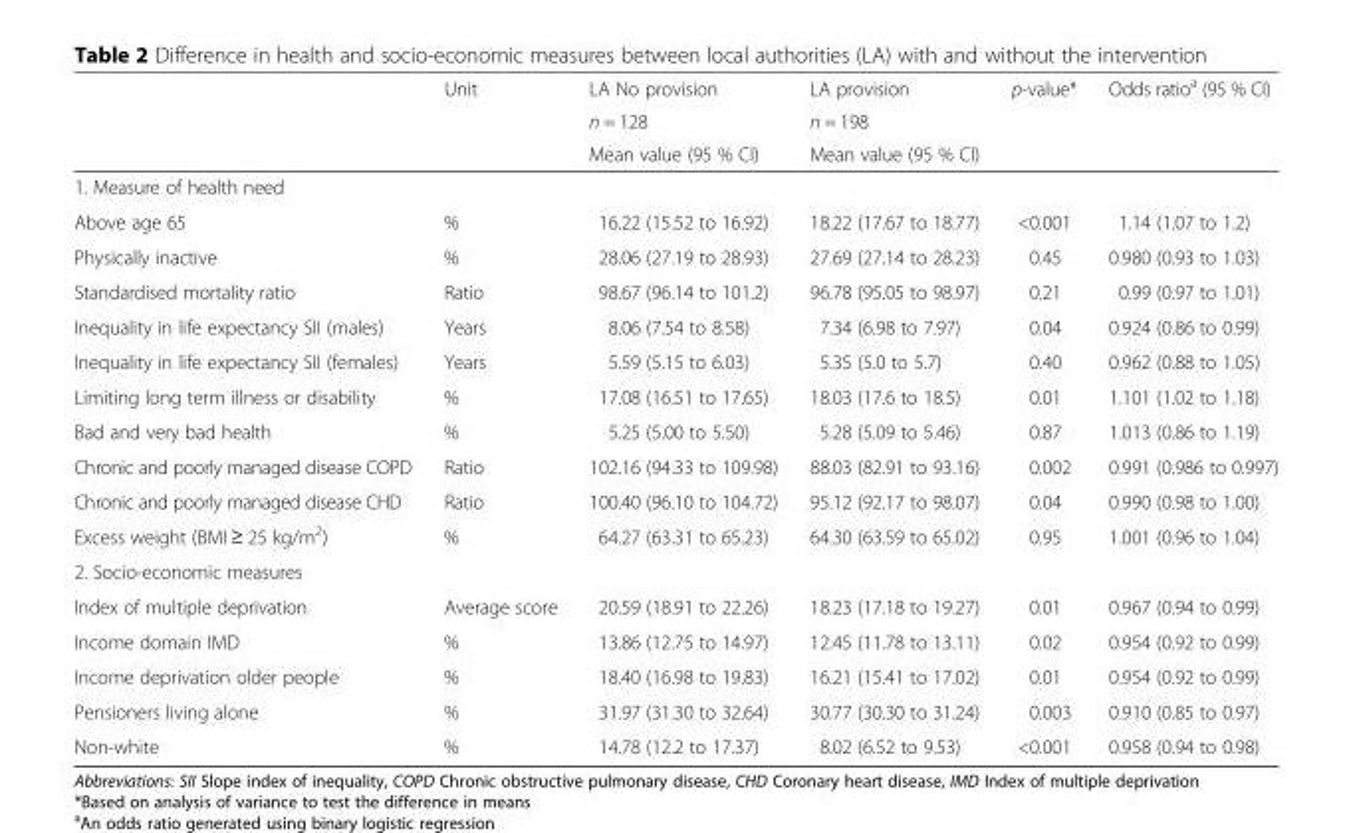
<table><thead><tr><td rowspan="3"></td><td rowspan="3">Unit</td><td rowspan="3">LA No provision n = 128 Mean value (95 % CI)</td><td rowspan="3">LA provision n = 198 Mean value (95 % CI)</td><td rowspan="3">p-value*</td><td rowspan="3">Odds ratio<sup>a</sup> (95 % CI)</td></tr><tr></tr><tr></tr></thead><tbody><tr><td colspan="6">1. Measure of health need</td></tr><tr><td>Above age 65</td><td>%</td><td>16.22 (15.52 to 16.92)</td><td>18.22 (17.67 to 18.77)</td><td>&lt;0.001</td><td>1.14 (1.07 to 1.2)</td></tr><tr><td>Physically inactive</td><td>%</td><td>28.06 (27.19 to 28.93)</td><td>27.69 (27.14 to 28.23)</td><td>0.45</td><td>0.980 (0.93 to 1.03)</td></tr><tr><td>Standardised mortality ratio</td><td>Ratio</td><td>98.67 (96.14 to 101.2)</td><td>96.78 (95.05 to 98.97)</td><td>0.21</td><td>0.99 (0.97 to 1.01)</td></tr><tr><td>Inequality in life expectancy SII (males)</td><td>Years</td><td>8.06 (7.54 to 8.58)</td><td>7.34 (6.98 to 7.97)</td><td>0.04</td><td>0.924 (0.86 to 0.99)</td></tr><tr><td>Inequality in life expectancy SII (females)</td><td>Years</td><td>5.59 (5.15 to 6.03)</td><td>5.35 (5.0 to 5.7)</td><td>0.40</td><td>0.962 (0.88 to 1.05)</td></tr><tr><td>Limiting long term illness or disability</td><td>%</td><td>17.08 (16.51 to 17.65)</td><td>18.03 (17.6 to 18.5)</td><td>0.01</td><td>1.101 (1.02 to 1.18)</td></tr><tr><td>Bad and very bad health</td><td>%</td><td>5.25 (5.00 to 5.50)</td><td>5.28 (5.09 to 5.46)</td><td>0.87</td><td>1.013 (0.86 to 1.19)</td></tr><tr><td>Chronic and poorly managed disease COPD</td><td>Ratio</td><td>102.16 (94.33 to 109.98)</td><td>88.03 (82.91 to 93.16)</td><td>0.002</td><td>0.991 (0.986 to 0.997)</td></tr><tr><td>Chronic and poorly managed disease CHD</td><td>Ratio</td><td>100.40 (96.10 to 104.72)</td><td>95.12 (92.17 to 98.07)</td><td>0.04</td><td>0.990 (0.98 to 1.00)</td></tr><tr><td>Excess weight (BMI ≥ 25 kg/m<sup>2</sup>)</td><td>%</td><td>64.27 (63.31 to 65.23)</td><td>64.30 (63.59 to 65.02)</td><td>0.95</td><td>1.001 (0.96 to 1.04)</td></tr><tr><td colspan="6">2. Socio-economic measures</td></tr><tr><td>Index of multiple deprivation</td><td>Average score</td><td>20.59 (18.91 to 22.26)</td><td>18.23 (17.18 to 19.27)</td><td>0.01</td><td>0.967 (0.94 to 0.99)</td></tr><tr><td>Income domain IMD</td><td>%</td><td>13.86 (12.75 to 14.97)</td><td>12.45 (11.78 to 13.11)</td><td>0.02</td><td>0.954 (0.92 to 0.99)</td></tr><tr><td>Income deprivation older people</td><td>%</td><td>18.40 (16.98 to 19.83)</td><td>16.21 (15.41 to 17.02)</td><td>0.01</td><td>0.954 (0.92 to 0.99)</td></tr><tr><td>Pensioners living alone</td><td>%</td><td>31.97 (31.30 to 32.64)</td><td>30.77 (30.30 to 31.24)</td><td>0.003</td><td>0.910 (0.85 to 0.97)</td></tr><tr><td>Non-white</td><td>%</td><td>14.78 (12.2 to 17.37)</td><td>8.02 (6.52 to 9.53)</td><td>&lt;0.001</td><td>0.958 (0.94 to 0.98)</td></tr></tbody></table>